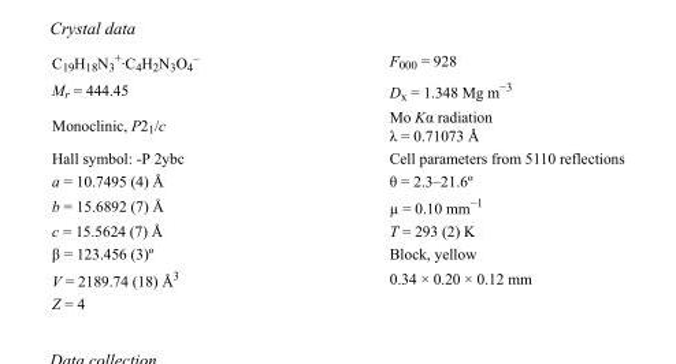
<table><tbody><tr><td>C<sub>19</sub>H<sub>18</sub>N<sub>3</sub> <sup>+</sup>·C<sub>4</sub>H<sub>2</sub>N<sub>3</sub>O<sub>4</sub> <sup>–</sup></td><td>F<sub>000</sub> = 928</td></tr><tr><td>M<sub>r</sub> = 444.45</td><td>D<sub>x</sub> = 1.348 Mg m<sup>−3</sup></td></tr><tr><td>Monoclinic, P2<sub>1</sub>/c</td><td>Mo Kα radiation λ = 0.71073 Å</td></tr><tr><td>Hall symbol: -P 2ybc</td><td>Cell parameters from 5110 reflections</td></tr><tr><td>a = 10.7495 (4) Å</td><td>θ = 2.3–21.6º</td></tr><tr><td>b = 15.6892 (7) Å</td><td>µ = 0.10 mm<sup>−1</sup></td></tr><tr><td>c = 15.5624 (7) Å</td><td>T = 293 (2) K</td></tr><tr><td>β = 123.456 (3)º</td><td>Block, yellow</td></tr><tr><td>V = 2189.74 (18) Å<sup>3</sup></td><td>0.34 × 0.20 × 0.12 mm</td></tr><tr><td>Z = 4</td><td></td></tr></tbody></table>